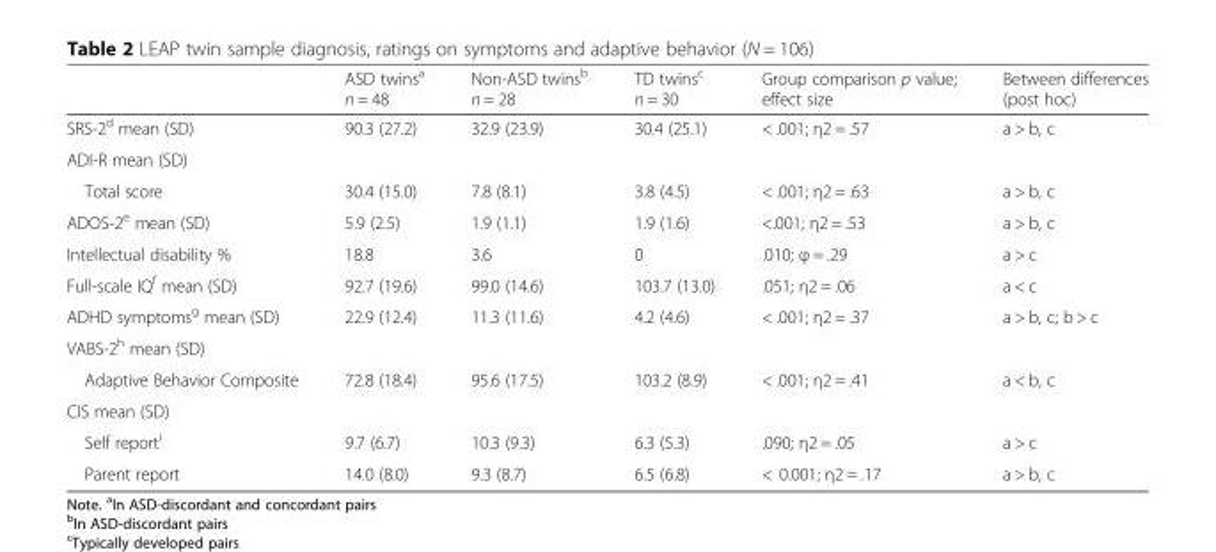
<table><thead><tr><td></td><td>ASD twins<sup>a</sup> n = 48</td><td>Non-ASD twins<sup>b</sup> n = 28</td><td>TD twins<sup>c</sup> n = 30</td><td>Group comparison p value; effect size</td><td>Between differences (post hoc)</td></tr></thead><tbody><tr><td>SRS-2<sup>d</sup> mean (SD)</td><td>90.3 (27.2)</td><td>32.9 (23.9)</td><td>30.4 (25.1)</td><td>&lt; .001; η2 = .57</td><td>a &gt; b, c</td></tr><tr><td colspan="6">ADI-R mean (SD)</td></tr><tr><td>Total score</td><td>30.4 (15.0)</td><td>7.8 (8.1)</td><td>3.8 (4.5)</td><td>&lt; .001; η2 = .63</td><td>a &gt; b, c</td></tr><tr><td>ADOS-2<sup>e</sup> mean (SD)</td><td>5.9 (2.5)</td><td>1.9 (1.1)</td><td>1.9 (1.6)</td><td>&lt;.001; η2 = .53</td><td>a &gt; b, c</td></tr><tr><td>Intellectual disability %</td><td>18.8</td><td>3.6</td><td>0</td><td>.010; φ = .29</td><td>a &gt; c</td></tr><tr><td>Full-scale IQ<sup>f</sup> mean (SD)</td><td>92.7 (19.6)</td><td>99.0 (14.6)</td><td>103.7 (13.0)</td><td>.051; η2 = .06</td><td>a &lt; c</td></tr><tr><td>ADHD symptoms<sup>g</sup> mean (SD)</td><td>22.9 (12.4)</td><td>11.3 (11.6)</td><td>4.2 (4.6)</td><td>&lt; .001; η2 = .37</td><td>a &gt; b, c; b &gt; c</td></tr><tr><td colspan="6">VABS-2<sup>h</sup> mean (SD)</td></tr><tr><td>Adaptive Behavior Composite</td><td>72.8 (18.4)</td><td>95.6 (17.5)</td><td>103.2 (8.9)</td><td>&lt; .001; η2 = .41</td><td>a &lt; b, c</td></tr><tr><td colspan="6">CIS mean (SD)</td></tr><tr><td>Self report<sup>i</sup></td><td>9.7 (6.7)</td><td>10.3 (9.3)</td><td>6.3 (5.3)</td><td>.090; η2 = .05</td><td>a &gt; c</td></tr><tr><td>Parent report</td><td>14.0 (8.0)</td><td>9.3 (8.7)</td><td>6.5 (6.8)</td><td>&lt; 0.001; η2 = .17</td><td>a &gt; b, c</td></tr></tbody></table>